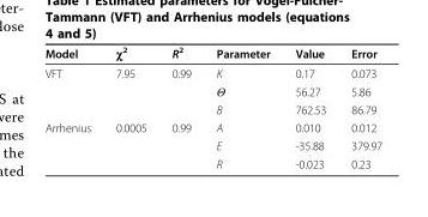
<table><thead><tr><td>Model</td><td>χ<sup>2</sup></td><td>R<sup>2</sup></td><td>Parameter</td><td>Value</td><td>Error</td></tr></thead><tbody><tr><td rowspan="3">VFT</td><td>7.95</td><td>0.99</td><td>K</td><td>0.17</td><td>0.073</td></tr><tr><td></td><td></td><td>Θ</td><td>56.27</td><td>5.86</td></tr><tr><td></td><td></td><td>B</td><td>762.53</td><td>86.79</td></tr><tr><td rowspan="3">Arrhenius</td><td>0.0005</td><td>0.99</td><td>A</td><td>0.010</td><td>0.012</td></tr><tr><td></td><td></td><td>E</td><td>-35.88</td><td>379.97</td></tr><tr><td></td><td></td><td>R</td><td>-0.023</td><td>0.23</td></tr></tbody></table>